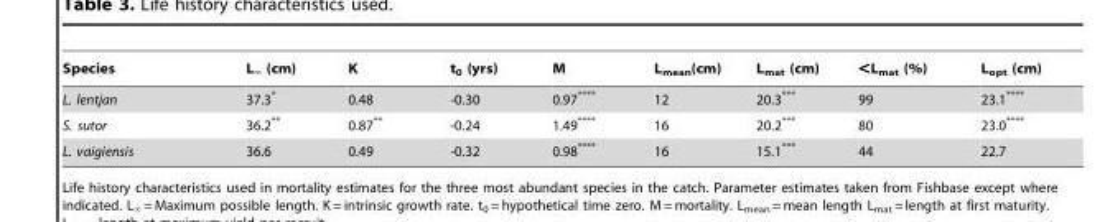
<table><thead><tr><td>Species</td><td>L‘ (cm)</td><td>K</td><td>t<sub>0</sub> (yrs)</td><td>M</td><td>L<sub>mean</sub>(cm)</td><td>L<sub>mat</sub> (cm)</td><td>&lt;L<sub>mat</sub> (%)</td><td>L<sub>opt</sub> (cm)</td></tr></thead><tbody><tr><td>L. lentjan</td><td>37.3*</td><td>0.48</td><td>-0.30</td><td>0.97****</td><td>12</td><td>20.3***</td><td>99</td><td>23.1****</td></tr><tr><td>S. sutor</td><td>36.2**</td><td>0.87**</td><td>-0.24</td><td>1.49****</td><td>16</td><td>20.2***</td><td>80</td><td>23.0****</td></tr><tr><td>L. vaigiensis</td><td>36.6</td><td>0.49</td><td>-0.32</td><td>0.98****</td><td>16</td><td>15.1***</td><td>44</td><td>22.7</td></tr></tbody></table>